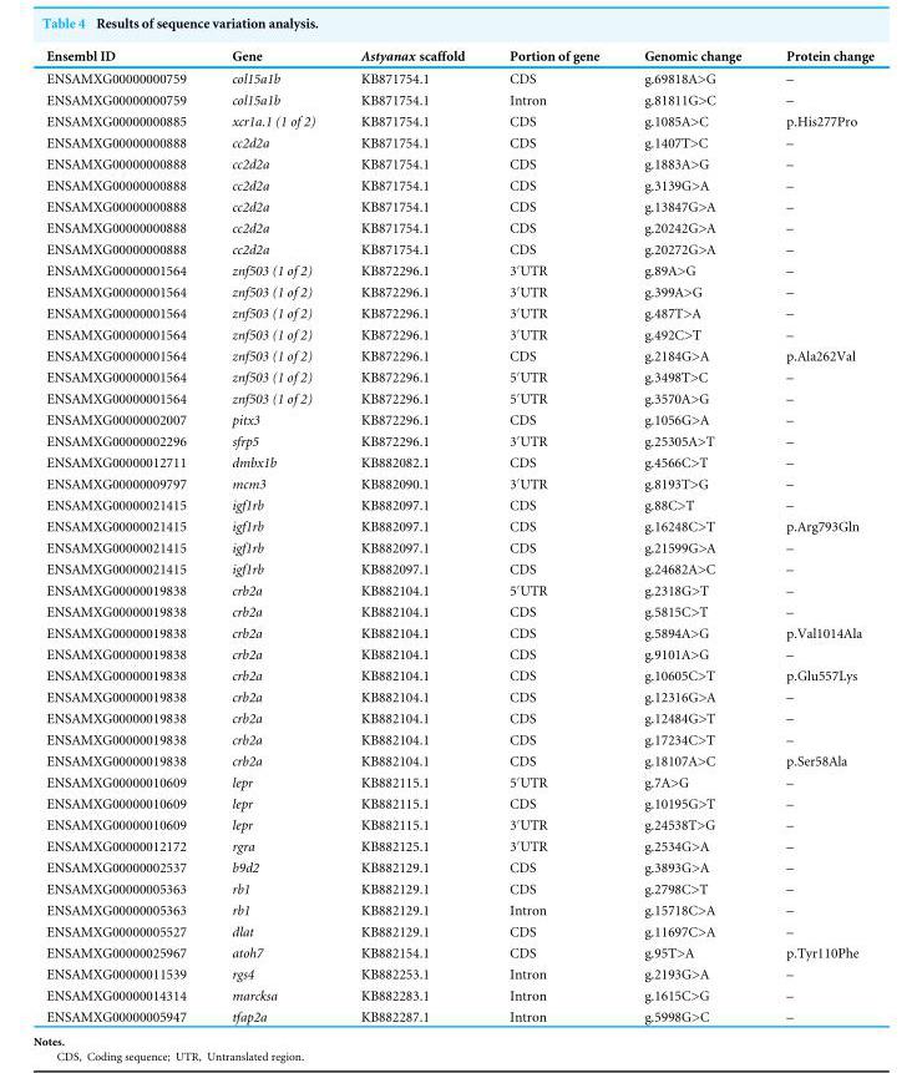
<table><thead><tr><td>Ensembl ID</td><td>Gene</td><td>Astyanax scaffold</td><td>Portion of gene</td><td>Genomic change</td><td>Protein change</td></tr></thead><tbody><tr><td>ENSAMXG00000000759</td><td>col15a1b</td><td>KB871754.1</td><td>CDS</td><td>g.69818A&gt;G</td><td>–</td></tr><tr><td>ENSAMXG00000000759</td><td>col15a1b</td><td>KB871754.1</td><td>Intron</td><td>g.81811G&gt;C</td><td>–</td></tr><tr><td>ENSAMXG00000000885</td><td>xcr1a.1 (1 of 2)</td><td>KB871754.1</td><td>CDS</td><td>g.1085A&gt;C</td><td>p.His277Pro</td></tr><tr><td>ENSAMXG00000000888</td><td>cc2d2a</td><td>KB871754.1</td><td>CDS</td><td>g.1407T&gt;C</td><td>–</td></tr><tr><td>ENSAMXG00000000888</td><td>cc2d2a</td><td>KB871754.1</td><td>CDS</td><td>g.1883A&gt;G</td><td>–</td></tr><tr><td>ENSAMXG00000000888</td><td>cc2d2a</td><td>KB871754.1</td><td>CDS</td><td>g.3139G&gt;A</td><td>–</td></tr><tr><td>ENSAMXG00000000888</td><td>cc2d2a</td><td>KB871754.1</td><td>CDS</td><td>g.13847G&gt;A</td><td>–</td></tr><tr><td>ENSAMXG00000000888</td><td>cc2d2a</td><td>KB871754.1</td><td>CDS</td><td>g.20242G&gt;A</td><td>–</td></tr><tr><td>ENSAMXG00000000888</td><td>cc2d2a</td><td>KB871754.1</td><td>CDS</td><td>g.20272G&gt;A</td><td>–</td></tr><tr><td>ENSAMXG00000001564</td><td>znf503 (1 of 2)</td><td>KB872296.1</td><td>3′UTR</td><td>g.89A&gt;G</td><td>–</td></tr><tr><td>ENSAMXG00000001564</td><td>znf503 (1 of 2)</td><td>KB872296.1</td><td>3′UTR</td><td>g.399A&gt;G</td><td>–</td></tr><tr><td>ENSAMXG00000001564</td><td>znf503 (1 of 2)</td><td>KB872296.1</td><td>3′UTR</td><td>g.487T&gt;A</td><td>–</td></tr><tr><td>ENSAMXG00000001564</td><td>znf503 (1 of 2)</td><td>KB872296.1</td><td>3′UTR</td><td>g.492C&gt;T</td><td>–</td></tr><tr><td>ENSAMXG00000001564</td><td>znf503 (1 of 2)</td><td>KB872296.1</td><td>CDS</td><td>g.2184G&gt;A</td><td>p.Ala262Val</td></tr><tr><td>ENSAMXG00000001564</td><td>znf503 (1 of 2)</td><td>KB872296.1</td><td>5′UTR</td><td>g.3498T&gt;C</td><td>–</td></tr><tr><td>ENSAMXG00000001564</td><td>znf503 (1 of 2)</td><td>KB872296.1</td><td>5′UTR</td><td>g.3570A&gt;G</td><td>–</td></tr><tr><td>ENSAMXG00000002007</td><td>pitx3</td><td>KB872296.1</td><td>CDS</td><td>g.1056G&gt;A</td><td>–</td></tr><tr><td>ENSAMXG00000002296</td><td>sfrp5</td><td>KB872296.1</td><td>3′UTR</td><td>g.25305A&gt;T</td><td>–</td></tr><tr><td>ENSAMXG00000012711</td><td>dmbx1b</td><td>KB882082.1</td><td>CDS</td><td>g.4566C&gt;T</td><td>–</td></tr><tr><td>ENSAMXG00000009797</td><td>mcm3</td><td>KB882090.1</td><td>3′UTR</td><td>g.8193T&gt;G</td><td>–</td></tr><tr><td>ENSAMXG00000021415</td><td>igf1rb</td><td>KB882097.1</td><td>CDS</td><td>g.88C&gt;T</td><td>–</td></tr><tr><td>ENSAMXG00000021415</td><td>igf1rb</td><td>KB882097.1</td><td>CDS</td><td>g.16248C&gt;T</td><td>p.Arg793Gln</td></tr><tr><td>ENSAMXG00000021415</td><td>igf1rb</td><td>KB882097.1</td><td>CDS</td><td>g.21599G&gt;A</td><td>–</td></tr><tr><td>ENSAMXG00000021415</td><td>igf1rb</td><td>KB882097.1</td><td>CDS</td><td>g.24682A&gt;C</td><td>–</td></tr><tr><td>ENSAMXG00000019838</td><td>crb2a</td><td>KB882104.1</td><td>5′UTR</td><td>g.2318G&gt;T</td><td>–</td></tr><tr><td>ENSAMXG00000019838</td><td>crb2a</td><td>KB882104.1</td><td>CDS</td><td>g.5815C&gt;T</td><td>–</td></tr><tr><td>ENSAMXG00000019838</td><td>crb2a</td><td>KB882104.1</td><td>CDS</td><td>g.5894A&gt;G</td><td>p.Val1014Ala</td></tr><tr><td>ENSAMXG00000019838</td><td>crb2a</td><td>KB882104.1</td><td>CDS</td><td>g.9101A&gt;G</td><td>–</td></tr><tr><td>ENSAMXG00000019838</td><td>crb2a</td><td>KB882104.1</td><td>CDS</td><td>g.10605C&gt;T</td><td>p.Glu557Lys</td></tr><tr><td>ENSAMXG00000019838</td><td>crb2a</td><td>KB882104.1</td><td>CDS</td><td>g.12316G&gt;A</td><td>–</td></tr><tr><td>ENSAMXG00000019838</td><td>crb2a</td><td>KB882104.1</td><td>CDS</td><td>g.12484G&gt;T</td><td>–</td></tr><tr><td>ENSAMXG00000019838</td><td>crb2a</td><td>KB882104.1</td><td>CDS</td><td>g.17234C&gt;T</td><td>–</td></tr><tr><td>ENSAMXG00000019838</td><td>crb2a</td><td>KB882104.1</td><td>CDS</td><td>g.18107A&gt;C</td><td>p.Ser58Ala</td></tr><tr><td>ENSAMXG00000010609</td><td>lepr</td><td>KB882115.1</td><td>5′UTR</td><td>g.7A&gt;G</td><td>–</td></tr><tr><td>ENSAMXG00000010609</td><td>lepr</td><td>KB882115.1</td><td>CDS</td><td>g.10195G&gt;T</td><td>–</td></tr><tr><td>ENSAMXG00000010609</td><td>lepr</td><td>KB882115.1</td><td>3′UTR</td><td>g.24538T&gt;G</td><td>–</td></tr><tr><td>ENSAMXG00000012172</td><td>rgra</td><td>KB882125.1</td><td>3′UTR</td><td>g.2534G&gt;A</td><td>–</td></tr><tr><td>ENSAMXG00000002537</td><td>b9d2</td><td>KB882129.1</td><td>CDS</td><td>g.3893G&gt;A</td><td>–</td></tr><tr><td>ENSAMXG00000005363</td><td>rb1</td><td>KB882129.1</td><td>CDS</td><td>g.2798C&gt;T</td><td>–</td></tr><tr><td>ENSAMXG00000005363</td><td>rb1</td><td>KB882129.1</td><td>Intron</td><td>g.15718C&gt;A</td><td>–</td></tr><tr><td>ENSAMXG00000005527</td><td>dlat</td><td>KB882129.1</td><td>CDS</td><td>g.11697C&gt;A</td><td>–</td></tr><tr><td>ENSAMXG00000025967</td><td>atoh7</td><td>KB882154.1</td><td>CDS</td><td>g.95T&gt;A</td><td>p.Tyr110Phe</td></tr><tr><td>ENSAMXG00000011539</td><td>rgs4</td><td>KB882253.1</td><td>Intron</td><td>g.2193G&gt;A</td><td>–</td></tr><tr><td>ENSAMXG00000014314</td><td>marcksa</td><td>KB882283.1</td><td>Intron</td><td>g.1615C&gt;G</td><td>–</td></tr><tr><td>ENSAMXG00000005947</td><td>tfap2a</td><td>KB882287.1</td><td>Intron</td><td>g.5998G&gt;C</td><td>–</td></tr></tbody></table>